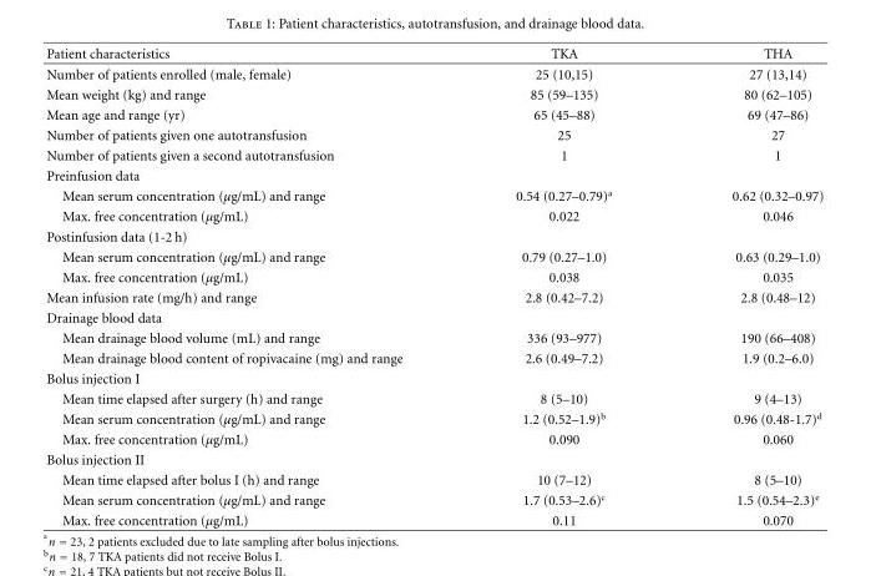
<table><thead><tr><td>Patient characteristics</td><td>TKA</td><td>THA</td></tr></thead><tbody><tr><td>Number of patients enrolled (male, female)</td><td>25 (10,15)</td><td>27 (13,14)</td></tr><tr><td>Mean weight (kg) and range</td><td>85 (59–135)</td><td>80 (62–105)</td></tr><tr><td>Mean age and range (yr)</td><td>65 (45–88)</td><td>69 (47–86)</td></tr><tr><td>Number of patients given one autotransfusion</td><td>25</td><td>27</td></tr><tr><td>Number of patients given a second autotransfusion</td><td>1</td><td>1</td></tr><tr><td colspan="3">Preinfusion data</td></tr><tr><td>Mean serum concentration (µg/mL) and range</td><td>0.54 (0.27–0.79)<sup>a</sup></td><td>0.62 (0.32–0.97)</td></tr><tr><td>Max. free concentration (µg/mL)</td><td>0.022</td><td>0.046</td></tr><tr><td colspan="3">Postinfusion data (1-2 h)</td></tr><tr><td>Mean serum concentration (µg/mL) and range</td><td>0.79 (0.27–1.0)</td><td>0.63 (0.29–1.0)</td></tr><tr><td>Max. free concentration (µg/mL)</td><td>0.038</td><td>0.035</td></tr><tr><td>Mean infusion rate (mg/h) and range</td><td>2.8 (0.42–7.2)</td><td>2.8 (0.48–12)</td></tr><tr><td colspan="3">Drainage blood data</td></tr><tr><td>Mean drainage blood volume (mL) and range</td><td>336 (93–977)</td><td>190 (66–408)</td></tr><tr><td>Mean drainage blood content of ropivacaine (mg) and range</td><td>2.6 (0.49–7.2)</td><td>1.9 (0.2–6.0)</td></tr><tr><td colspan="3">Bolus injection I</td></tr><tr><td>Mean time elapsed after surgery (h) and range</td><td>8 (5–10)</td><td>9 (4–13)</td></tr><tr><td>Mean serum concentration (µg/mL) and range</td><td>1.2 (0.52–1.9)<sup>b</sup></td><td>0.96 (0.48-1.7)<sup>d</sup></td></tr><tr><td>Max. free concentration (µg/mL)</td><td>0.090</td><td>0.060</td></tr><tr><td colspan="3">Bolus injection II</td></tr><tr><td>Mean time elapsed after bolus I (h) and range</td><td>10 (7–12)</td><td>8 (5–10)</td></tr><tr><td>Mean serum concentration (µg/mL) and range</td><td>1.7 (0.53–2.6)<sup>c</sup></td><td>1.5 (0.54–2.3)<sup>e</sup></td></tr><tr><td>Max. free concentration (µg/mL)</td><td>0.11</td><td>0.070</td></tr></tbody></table>